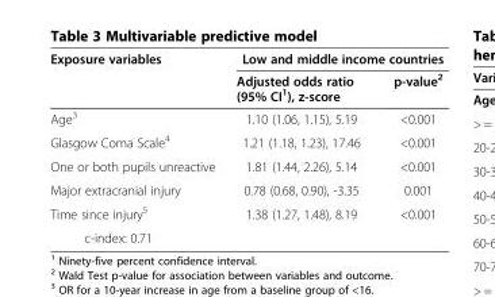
<table><thead><tr><td rowspan="2">Exposure variables</td><td colspan="2">Low and middle income countries</td></tr><tr><td>Adjusted odds ratio (95% CI<sup>1</sup>), z-score</td><td>p-value<sup>2</sup></td></tr></thead><tbody><tr><td>Age<sup>3</sup></td><td>1.10 (1.06, 1.15), 5.19</td><td>&lt;0.001</td></tr><tr><td>Glasgow Coma Scale<sup>4</sup></td><td>1.21 (1.18, 1.23), 17.46</td><td>&lt;0.001</td></tr><tr><td>One or both pupils unreactive</td><td>1.81 (1.44, 2.26), 5.14</td><td>&lt;0.001</td></tr><tr><td>Major extracranial injury</td><td>0.78 (0.68, 0.90), -3.35</td><td>0.001</td></tr><tr><td>Time since injury<sup>5</sup></td><td>1.38 (1.27, 1.48), 8.19</td><td>&lt;0.001</td></tr><tr><td colspan="3">c-index: 0.71</td></tr></tbody></table>